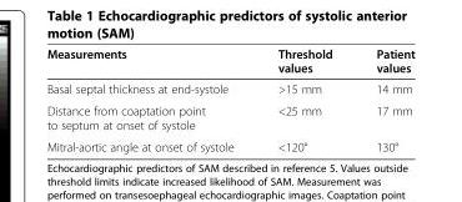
<table><thead><tr><td>Measurements</td><td>Threshold values</td><td>Patient values</td></tr></thead><tbody><tr><td>Basal septal thickness at end-systole</td><td>&gt;15 mm</td><td>14 mm</td></tr><tr><td>Distance from coaptation point to septum at onset of systole</td><td>&lt;25 mm</td><td>17 mm</td></tr><tr><td>Mitral-aortic angle at onset of systole</td><td>&lt;120°</td><td>130°</td></tr></tbody></table>